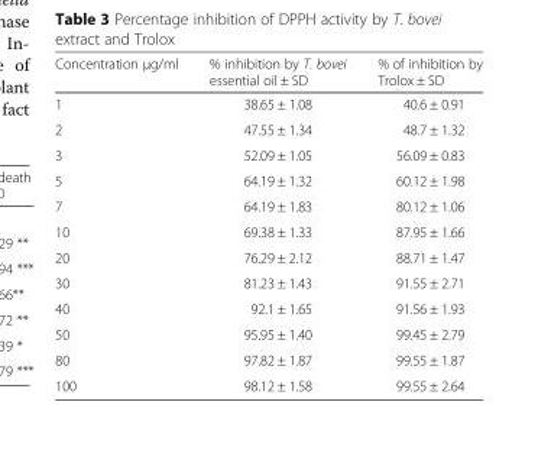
<table><thead><tr><td>Concentration μg/ml</td><td>% inhibition by T. bovei essential oil ± SD</td><td>% of inhibition by Trolox ± SD</td></tr></thead><tbody><tr><td>1</td><td>38.65 ± 1.08</td><td>40.6 ± 0.91</td></tr><tr><td>2</td><td>47.55 ± 1.34</td><td>48.7 ± 1.32</td></tr><tr><td>3</td><td>52.09 ± 1.05</td><td>56.09 ± 0.83</td></tr><tr><td>5</td><td>64.19 ± 1.32</td><td>60.12 ± 1.98</td></tr><tr><td>7</td><td>64.19 ± 1.83</td><td>80.12 ± 1.06</td></tr><tr><td>10</td><td>69.38 ± 1.33</td><td>87.95 ± 1.66</td></tr><tr><td>20</td><td>76.29 ± 2.12</td><td>88.71 ± 1.47</td></tr><tr><td>30</td><td>81.23 ± 1.43</td><td>91.55 ± 2.71</td></tr><tr><td>40</td><td>92.1 ± 1.65</td><td>91.56 ± 1.93</td></tr><tr><td>50</td><td>95.95 ± 1.40</td><td>99.45 ± 2.79</td></tr><tr><td>80</td><td>97.82 ± 1.87</td><td>99.55 ± 1.87</td></tr><tr><td>100</td><td>98.12 ± 1.58</td><td>99.55 ± 2.64</td></tr></tbody></table>